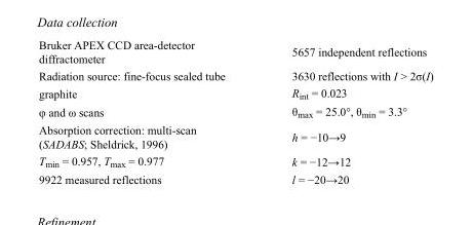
<table><tbody><tr><td>Bruker APEX CCD area-detector diffractometer</td><td>5657 independent reflections</td></tr><tr><td>Radiation source: fine-focus sealed tube</td><td>3630 reflections with I &gt; 2σ(I)</td></tr><tr><td>graphite</td><td>R<sub>int</sub> = 0.023</td></tr><tr><td>φ and ω scans</td><td>θ<sub>max</sub> = 25.0°, θ<sub>min</sub> = 3.3°</td></tr><tr><td>Absorption correction: multi-scan (SADABS; Sheldrick, 1996)</td><td>h = −10→9</td></tr><tr><td>T<sub>min</sub> = 0.957, T<sub>max</sub> = 0.977</td><td>k = −12→12</td></tr><tr><td>9922 measured reflections</td><td>l = −20→20</td></tr></tbody></table>